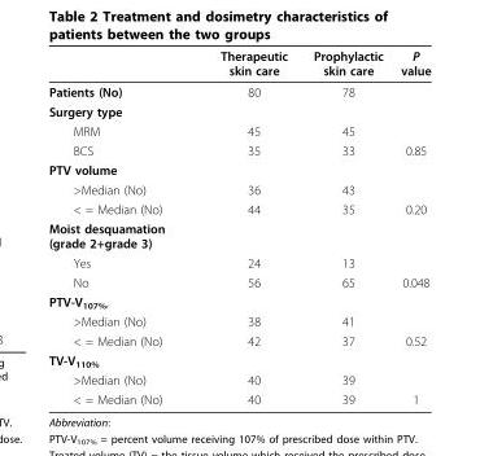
<table><thead><tr><td></td><td>Therapeutic skin care</td><td>Prophylactic skin care</td><td>P value</td></tr></thead><tbody><tr><td>Patients (No)</td><td>80</td><td>78</td><td></td></tr><tr><td colspan="4">Surgery type</td></tr><tr><td>MRM</td><td>45</td><td>45</td><td></td></tr><tr><td>BCS</td><td>35</td><td>33</td><td>0.85</td></tr><tr><td colspan="4">PTV volume</td></tr><tr><td>&gt;Median (No)</td><td>36</td><td>43</td><td></td></tr><tr><td>&lt; = Median (No)</td><td>44</td><td>35</td><td>0.20</td></tr><tr><td colspan="4">Moist desquamation (grade 2+grade 3)</td></tr><tr><td>Yes</td><td>24</td><td>13</td><td></td></tr><tr><td>No</td><td>56</td><td>65</td><td>0.048</td></tr><tr><td colspan="4">PTV-V<sub>107%</sub>,</td></tr><tr><td>&gt;Median (No)</td><td>38</td><td>41</td><td></td></tr><tr><td>&lt; = Median (No)</td><td>42</td><td>37</td><td>0.52</td></tr><tr><td colspan="4">TV-V<sub>110%</sub></td></tr><tr><td>&gt;Median (No)</td><td>40</td><td>39</td><td></td></tr><tr><td>&lt; = Median (No)</td><td>40</td><td>39</td><td>1</td></tr></tbody></table>